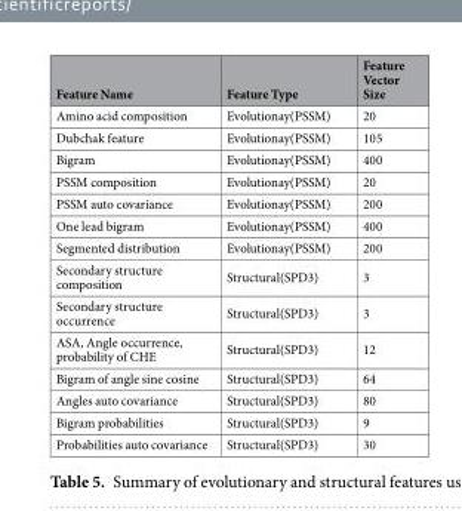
<table><thead><tr><td>Feature Name</td><td>Feature Type</td><td>Feature Vector Size</td></tr></thead><tbody><tr><td>Amino acid composition</td><td>Evolutionay(PSSM)</td><td>20</td></tr><tr><td>Dubchak feature</td><td>Evolutionay(PSSM)</td><td>105</td></tr><tr><td>Bigram</td><td>Evolutionay(PSSM)</td><td>400</td></tr><tr><td>PSSM composition</td><td>Evolutionay(PSSM)</td><td>20</td></tr><tr><td>PSSM auto covariance</td><td>Evolutionay(PSSM)</td><td>200</td></tr><tr><td>One lead bigram</td><td>Evolutionay(PSSM)</td><td>400</td></tr><tr><td>Segmented distribution</td><td>Evolutionay(PSSM)</td><td>200</td></tr><tr><td>Secondary structure composition</td><td>Structural(SPD3)</td><td>3</td></tr><tr><td>Secondary structure occurrence</td><td>Structural(SPD3)</td><td>3</td></tr><tr><td>ASA, Angle occurrence, probability of CHE</td><td>Structural(SPD3)</td><td>12</td></tr><tr><td>Bigram of angle sine cosine</td><td>Structural(SPD3)</td><td>64</td></tr><tr><td>Angles auto covariance</td><td>Structural(SPD3)</td><td>80</td></tr><tr><td>Bigram probabilities</td><td>Structural(SPD3)</td><td>9</td></tr><tr><td>Probabilities auto covariance</td><td>Structural(SPD3)</td><td>30</td></tr></tbody></table>